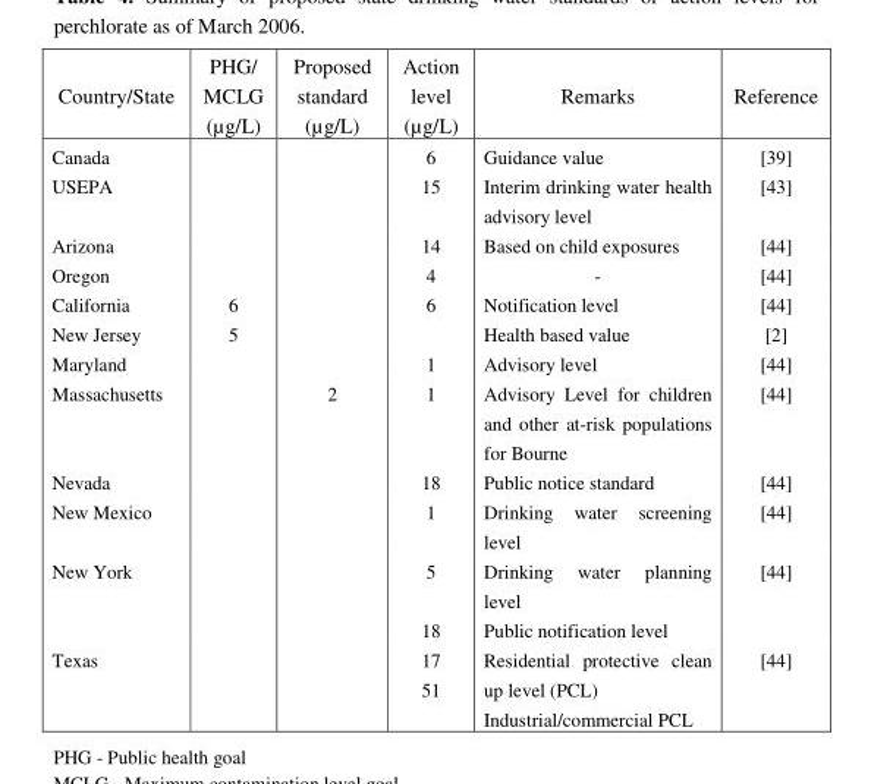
<table><thead><tr><td>Country/State</td><td>PHG/ MCLG (µg/L)</td><td>Proposed standard (µg/L)</td><td>Action level (µg/L)</td><td>Remarks</td><td>Reference</td></tr></thead><tbody><tr><td>Canada</td><td></td><td></td><td>6</td><td>Guidance value</td><td>[39]</td></tr><tr><td>USEPA</td><td></td><td></td><td>15</td><td>Interim drinking water health advisory level</td><td>[43]</td></tr><tr><td>Arizona</td><td></td><td></td><td>14</td><td>Based on child exposures</td><td>[44]</td></tr><tr><td>Oregon</td><td></td><td></td><td>4</td><td>-</td><td>[44]</td></tr><tr><td>California</td><td>6</td><td></td><td>6</td><td>Notification level</td><td>[44]</td></tr><tr><td>New Jersey</td><td>5</td><td></td><td></td><td>Health based value</td><td>[2]</td></tr><tr><td>Maryland</td><td></td><td></td><td>1</td><td>Advisory level</td><td>[44]</td></tr><tr><td>Massachusetts</td><td></td><td>2</td><td>1</td><td>Advisory Level for children and other at-risk populations for Bourne</td><td>[44]</td></tr><tr><td>Nevada</td><td></td><td></td><td>18</td><td>Public notice standard</td><td>[44]</td></tr><tr><td>New Mexico</td><td></td><td></td><td>1</td><td>Drinking water screening level</td><td>[44]</td></tr><tr><td rowspan="2">New York</td><td></td><td></td><td>5</td><td>Drinking water planning level</td><td>[44]</td></tr><tr><td></td><td></td><td>18</td><td>Public notification level</td><td></td></tr><tr><td>Texas</td><td></td><td></td><td>17 51</td><td>Residential protective clean up level (PCL) Industrial/commercial PCL</td><td>[44]</td></tr></tbody></table>